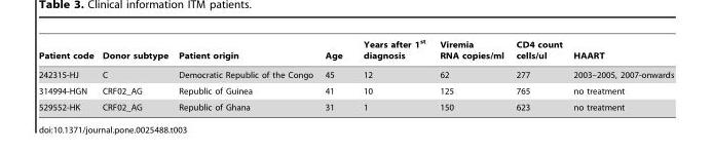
<table><thead><tr><td>Patient code</td><td>Donor subtype</td><td>Patient origin</td><td>Age</td><td>Years after 1<sup>st</sup> diagnosis</td><td>Viremia RNA copies/ml</td><td>CD4 count cells/ul</td><td>HAART</td></tr></thead><tbody><tr><td>242315-HJ</td><td>C</td><td>Democratic Republic of the Congo</td><td>45</td><td>12</td><td>62</td><td>277</td><td>2003–2005, 2007-onwards</td></tr><tr><td>314994-HGN</td><td>CRF02_AG</td><td>Republic of Guinea</td><td>41</td><td>10</td><td>125</td><td>765</td><td>no treatment</td></tr><tr><td>529552-HK</td><td>CRF02_AG</td><td>Republic of Ghana</td><td>31</td><td>1</td><td>150</td><td>623</td><td>no treatment</td></tr></tbody></table>